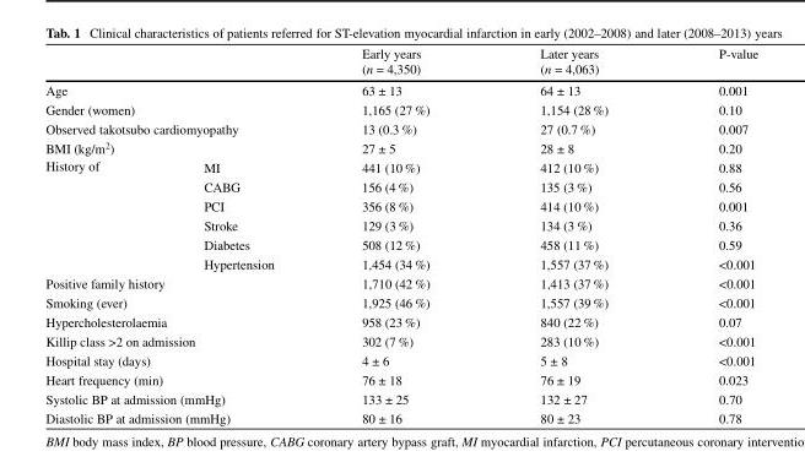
<table><thead><tr><td></td><td></td><td>Early years (n = 4,350)</td><td>Later years (n = 4,063)</td><td>P-value</td></tr></thead><tbody><tr><td colspan="2">Age</td><td>63 ± 13</td><td>64 ± 13</td><td>0.001</td></tr><tr><td colspan="2">Gender (women)</td><td>1,165 (27 %)</td><td>1,154 (28 %)</td><td>0.10</td></tr><tr><td colspan="2">Observed takotsubo cardiomyopathy</td><td>13 (0.3 %)</td><td>27 (0.7 %)</td><td>0.007</td></tr><tr><td colspan="2">BMI (kg/m<sup>2</sup>)</td><td>27 ± 5</td><td>28 ± 8</td><td>0.20</td></tr><tr><td rowspan="6">History of</td><td>MI</td><td>441 (10 %)</td><td>412 (10 %)</td><td>0.88</td></tr><tr><td>CABG</td><td>156 (4 %)</td><td>135 (3 %)</td><td>0.56</td></tr><tr><td>PCI</td><td>356 (8 %)</td><td>414 (10 %)</td><td>0.001</td></tr><tr><td>Stroke</td><td>129 (3 %)</td><td>134 (3 %)</td><td>0.36</td></tr><tr><td>Diabetes</td><td>508 (12 %)</td><td>458 (11 %)</td><td>0.59</td></tr><tr><td>Hypertension</td><td>1,454 (34 %)</td><td>1,557 (37 %)</td><td>&lt;0.001</td></tr><tr><td colspan="2">Positive family history</td><td>1,710 (42 %)</td><td>1,413 (37 %)</td><td>&lt;0.001</td></tr><tr><td colspan="2">Smoking (ever)</td><td>1,925 (46 %)</td><td>1,557 (39 %)</td><td>&lt;0.001</td></tr><tr><td colspan="2">Hypercholesterolaemia</td><td>958 (23 %)</td><td>840 (22 %)</td><td>0.07</td></tr><tr><td colspan="2">Killip class &gt;2 on admission</td><td>302 (7 %)</td><td>283 (10 %)</td><td>&lt;0.001</td></tr><tr><td colspan="2">Hospital stay (days)</td><td>4 ± 6</td><td>5 ± 8</td><td>&lt;0.001</td></tr><tr><td colspan="2">Heart frequency (min)</td><td>76 ± 18</td><td>76 ± 19</td><td>0.023</td></tr><tr><td colspan="2">Systolic BP at admission (mmHg)</td><td>133 ± 25</td><td>132 ± 27</td><td>0.70</td></tr><tr><td colspan="2">Diastolic BP at admission (mmHg)</td><td>80 ± 16</td><td>80 ± 23</td><td>0.78</td></tr></tbody></table>